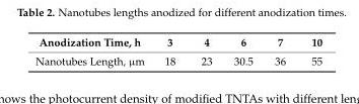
<table><thead><tr><td>Anodization Time, h</td><td>3</td><td>4</td><td>6</td><td>7</td><td>10</td></tr></thead><tbody><tr><td>Nanotubes Length, µm</td><td>18</td><td>23</td><td>30.5</td><td>36</td><td>55</td></tr></tbody></table>